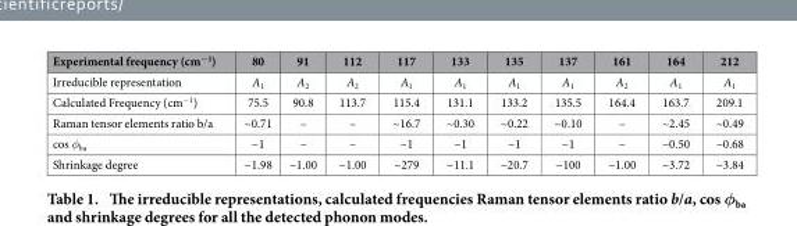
<table><thead><tr><td>Experimental frequency (cm<sup>−1</sup>)</td><td>80</td><td>91</td><td>112</td><td>117</td><td>133</td><td>135</td><td>137</td><td>161</td><td>164</td><td>212</td></tr></thead><tbody><tr><td>Irreducible representation</td><td>A<sub>1</sub></td><td>A<sub>2</sub></td><td>A<sub>2</sub></td><td>A<sub>1</sub></td><td>A<sub>1</sub></td><td>A<sub>1</sub></td><td>A<sub>1</sub></td><td>A<sub>2</sub></td><td>A<sub>1</sub></td><td>A<sub>1</sub></td></tr><tr><td>Calculated Frequency (cm<sup>−1</sup>)</td><td>75.5</td><td>90.8</td><td>113.7</td><td>115.4</td><td>131.1</td><td>133.2</td><td>135.5</td><td>164.4</td><td>163.7</td><td>209.1</td></tr><tr><td>Raman tensor elements ratio b/a</td><td>~0.71</td><td>–</td><td>–</td><td>~16.7</td><td>~0.30</td><td>~0.22</td><td>~0.10</td><td>–</td><td>~2.45</td><td>~0.49</td></tr><tr><td>cos φ<sub>ba</sub></td><td>~1</td><td>–</td><td>–</td><td>~1</td><td>~1</td><td>~1</td><td>~1</td><td>–</td><td>~0.50</td><td>~0.68</td></tr><tr><td>Shrinkage degree</td><td>~1.98</td><td>~1.00</td><td>~1.00</td><td>~279</td><td>~11.1</td><td>~20.7</td><td>~100</td><td>~1.00</td><td>~3.72</td><td>~3.84</td></tr></tbody></table>